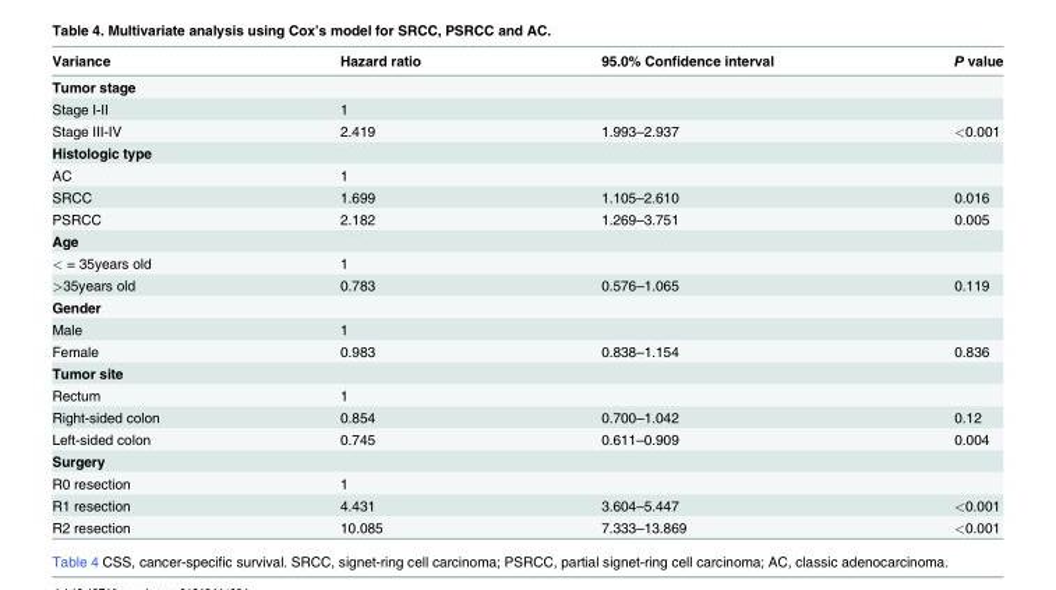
<table><thead><tr><td>Variance</td><td>Hazard ratio</td><td>95.0% Confidence interval</td><td>P value</td></tr></thead><tbody><tr><td colspan="4">Tumor stage</td></tr><tr><td>Stage I-II</td><td>1</td><td></td><td></td></tr><tr><td>Stage III-IV</td><td>2.419</td><td>1.993–2.937</td><td>&lt;0.001</td></tr><tr><td colspan="4">Histologic type</td></tr><tr><td>AC</td><td>1</td><td></td><td></td></tr><tr><td>SRCC</td><td>1.699</td><td>1.105–2.610</td><td>0.016</td></tr><tr><td>PSRCC</td><td>2.182</td><td>1.269–3.751</td><td>0.005</td></tr><tr><td colspan="4">Age</td></tr><tr><td>&lt; = 35years old</td><td>1</td><td></td><td></td></tr><tr><td>&gt;35years old</td><td>0.783</td><td>0.576–1.065</td><td>0.119</td></tr><tr><td colspan="4">Gender</td></tr><tr><td>Male</td><td>1</td><td></td><td></td></tr><tr><td>Female</td><td>0.983</td><td>0.838–1.154</td><td>0.836</td></tr><tr><td colspan="4">Tumor site</td></tr><tr><td>Rectum</td><td>1</td><td></td><td></td></tr><tr><td>Right-sided colon</td><td>0.854</td><td>0.700–1.042</td><td>0.12</td></tr><tr><td>Left-sided colon</td><td>0.745</td><td>0.611–0.909</td><td>0.004</td></tr><tr><td colspan="4">Surgery</td></tr><tr><td>R0 resection</td><td>1</td><td></td><td></td></tr><tr><td>R1 resection</td><td>4.431</td><td>3.604–5.447</td><td>&lt;0.001</td></tr><tr><td>R2 resection</td><td>10.085</td><td>7.333–13.869</td><td>&lt;0.001</td></tr></tbody></table>